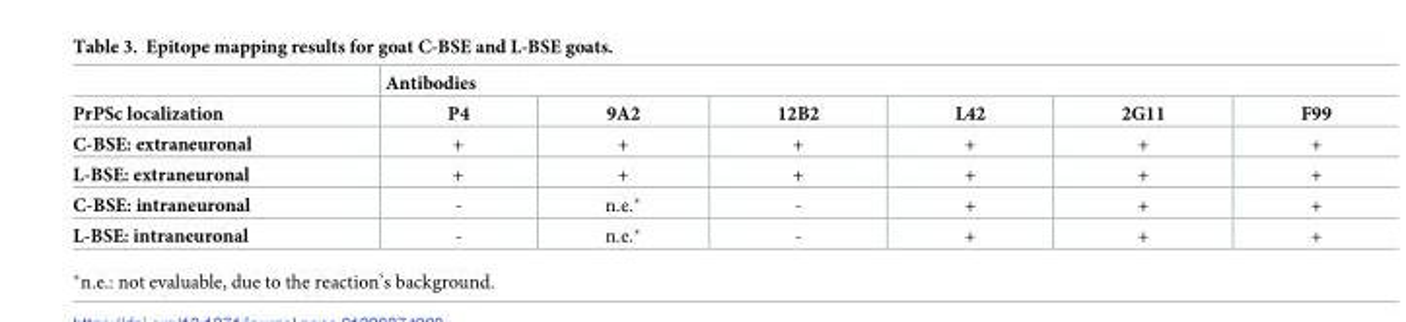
<table><thead><tr><td rowspan="2">PrPSc localization</td><td colspan="6">Antibodies</td></tr><tr><td>P4</td><td>9A2</td><td>12B2</td><td>L42</td><td>2G11</td><td>F99</td></tr></thead><tbody><tr><td>C-BSE: extraneuronal</td><td>+</td><td>+</td><td>+</td><td>+</td><td>+</td><td>+</td></tr><tr><td>L-BSE: extraneuronal</td><td>+</td><td>+</td><td>+</td><td>+</td><td>+</td><td>+</td></tr><tr><td>C-BSE: intraneuronal</td><td>-</td><td>n.e.*</td><td>-</td><td>+</td><td>+</td><td>+</td></tr><tr><td>L-BSE: intraneuronal</td><td>-</td><td>n.e.*</td><td>-</td><td>+</td><td>+</td><td>+</td></tr></tbody></table>